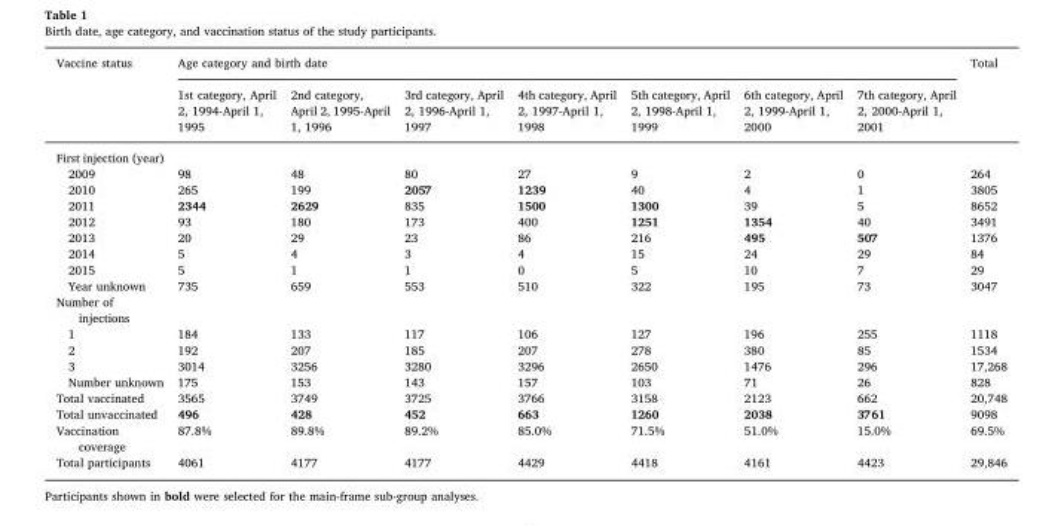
<table><thead><tr><td rowspan="2">Vaccine status</td><td colspan="7">Age category and birth date</td><td rowspan="2">Total</td></tr><tr><td>1st category, April 2, 1994-April 1, 1995</td><td>2nd category, April 2, 1995-April 1, 1996</td><td>3rd category, April 2, 1996-April 1, 1997</td><td>4th category, April 2, 1997-April 1, 1998</td><td>5th category, April 2, 1998-April 1, 1999</td><td>6th category, April 2, 1999-April 1, 2000</td><td>7th category, April 2, 2000-April 1, 2001</td></tr></thead><tbody><tr><td colspan="9">First injection (year)</td></tr><tr><td>2009</td><td>98</td><td>48</td><td>80</td><td>27</td><td>9</td><td>2</td><td>0</td><td>264</td></tr><tr><td>2010</td><td>265</td><td>199</td><td>2057</td><td>1239</td><td>40</td><td>4</td><td>1</td><td>3805</td></tr><tr><td>2011</td><td>2344</td><td>2629</td><td>835</td><td>1500</td><td>1300</td><td>39</td><td>5</td><td>8652</td></tr><tr><td>2012</td><td>93</td><td>180</td><td>173</td><td>400</td><td>1251</td><td>1354</td><td>40</td><td>3491</td></tr><tr><td>2013</td><td>20</td><td>29</td><td>23</td><td>86</td><td>216</td><td>495</td><td>507</td><td>1376</td></tr><tr><td>2014</td><td>5</td><td>4</td><td>3</td><td>4</td><td>15</td><td>24</td><td>29</td><td>84</td></tr><tr><td>2015</td><td>5</td><td>1</td><td>1</td><td>0</td><td>5</td><td>10</td><td>7</td><td>29</td></tr><tr><td>Year unknown</td><td>735</td><td>659</td><td>553</td><td>510</td><td>322</td><td>195</td><td>73</td><td>3047</td></tr><tr><td colspan="9">Number of injections</td></tr><tr><td>1</td><td>184</td><td>133</td><td>117</td><td>106</td><td>127</td><td>196</td><td>255</td><td>1118</td></tr><tr><td>2</td><td>192</td><td>207</td><td>185</td><td>207</td><td>278</td><td>380</td><td>85</td><td>1534</td></tr><tr><td>3</td><td>3014</td><td>3256</td><td>3280</td><td>3296</td><td>2650</td><td>1476</td><td>296</td><td>17,268</td></tr><tr><td>Number unknown</td><td>175</td><td>153</td><td>143</td><td>157</td><td>103</td><td>71</td><td>26</td><td>828</td></tr><tr><td>Total vaccinated</td><td>3565</td><td>3749</td><td>3725</td><td>3766</td><td>3158</td><td>2123</td><td>662</td><td>20,748</td></tr><tr><td>Total unvaccinated</td><td>496</td><td>428</td><td>452</td><td>663</td><td>1260</td><td>2038</td><td>3761</td><td>9098</td></tr><tr><td>Vaccination coverage</td><td>87.8%</td><td>89.8%</td><td>89.2%</td><td>85.0%</td><td>71.5%</td><td>51.0%</td><td>15.0%</td><td>69.5%</td></tr><tr><td>Total participants</td><td>4061</td><td>4177</td><td>4177</td><td>4429</td><td>4418</td><td>4161</td><td>4423</td><td>29,846</td></tr></tbody></table>